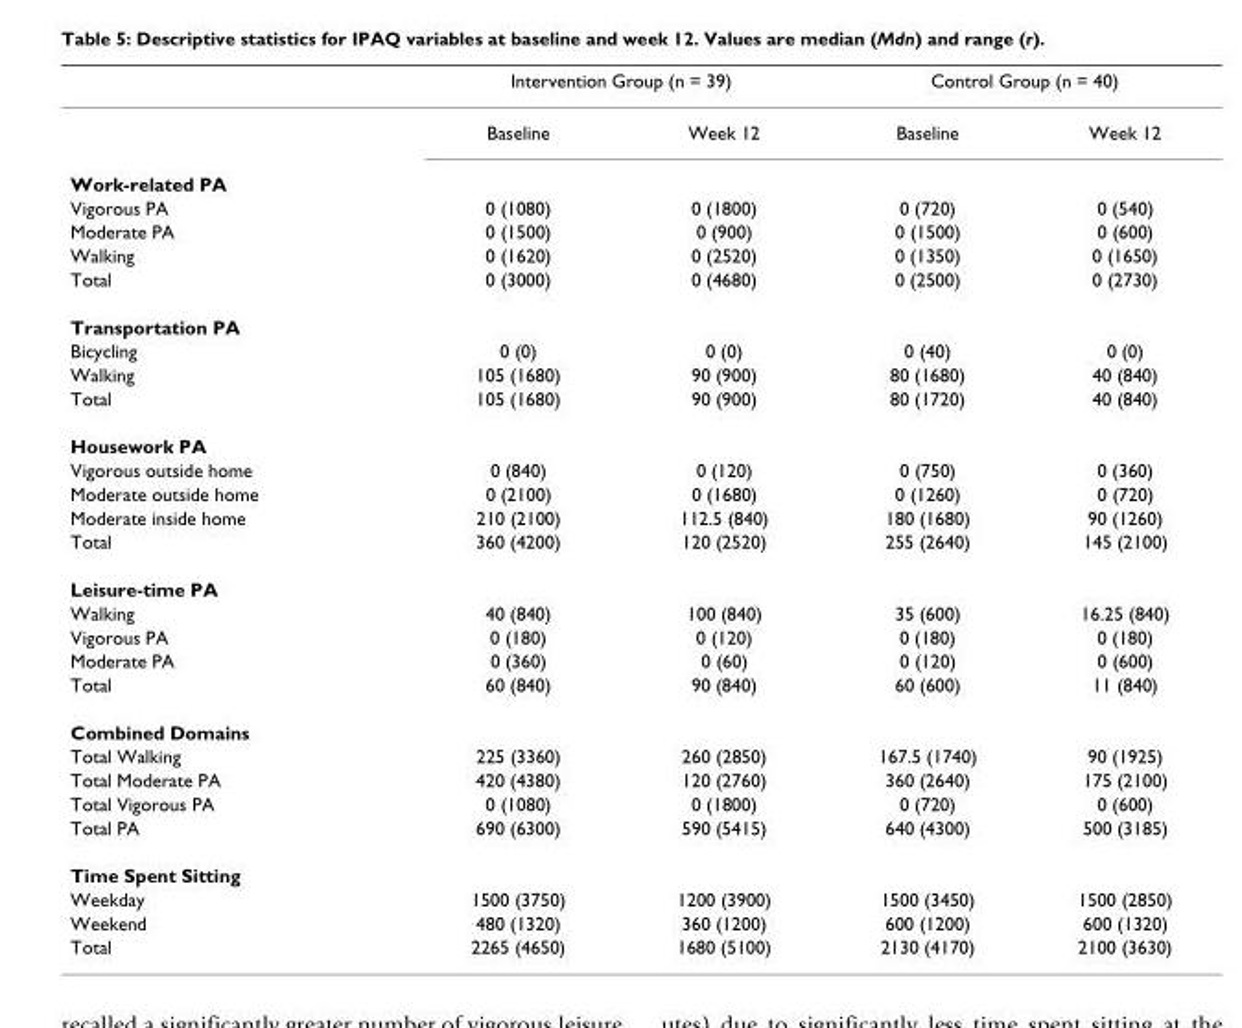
<table><thead><tr><td rowspan="2"></td><td colspan="2">Intervention Group (n = 39)</td><td colspan="2">Control Group (n = 40)</td></tr><tr><td>Baseline</td><td>Week 12</td><td>Baseline</td><td>Week 12</td></tr></thead><tbody><tr><td colspan="5">Work-related PA</td></tr><tr><td>Vigorous PA</td><td>0 (1080)</td><td>0 (1800)</td><td>0 (720)</td><td>0 (540)</td></tr><tr><td>Moderate PA</td><td>0 (1500)</td><td>0 (900)</td><td>0 (1500)</td><td>0 (600)</td></tr><tr><td>Walking</td><td>0 (1620)</td><td>0 (2520)</td><td>0 (1350)</td><td>0 (1650)</td></tr><tr><td>Total</td><td>0 (3000)</td><td>0 (4680)</td><td>0 (2500)</td><td>0 (2730)</td></tr><tr><td colspan="5">Transportation PA</td></tr><tr><td>Bicycling</td><td>0 (0)</td><td>0 (0)</td><td>0 (40)</td><td>0 (0)</td></tr><tr><td>Walking</td><td>105 (1680)</td><td>90 (900)</td><td>80 (1680)</td><td>40 (840)</td></tr><tr><td>Total</td><td>105 (1680)</td><td>90 (900)</td><td>80 (1720)</td><td>40 (840)</td></tr><tr><td colspan="5">Housework PA</td></tr><tr><td>Vigorous outside home</td><td>0 (840)</td><td>0 (120)</td><td>0 (750)</td><td>0 (360)</td></tr><tr><td>Moderate outside home</td><td>0 (2100)</td><td>0 (1680)</td><td>0 (1260)</td><td>0 (720)</td></tr><tr><td>Moderate inside home</td><td>210 (2100)</td><td>112.5 (840)</td><td>180 (1680)</td><td>90 (1260)</td></tr><tr><td>Total</td><td>360 (4200)</td><td>120 (2520)</td><td>255 (2640)</td><td>145 (2100)</td></tr><tr><td colspan="5">Leisure-time PA</td></tr><tr><td>Walking</td><td>40 (840)</td><td>100 (840)</td><td>35 (600)</td><td>16.25 (840)</td></tr><tr><td>Vigorous PA</td><td>0 (180)</td><td>0 (120)</td><td>0 (180)</td><td>0 (180)</td></tr><tr><td>Moderate PA</td><td>0 (360)</td><td>0 (60)</td><td>0 (120)</td><td>0 (600)</td></tr><tr><td>Total</td><td>60 (840)</td><td>90 (840)</td><td>60 (600)</td><td>11 (840)</td></tr><tr><td colspan="5">Combined Domains</td></tr><tr><td>Total Walking</td><td>225 (3360)</td><td>260 (2850)</td><td>167.5 (1740)</td><td>90 (1925)</td></tr><tr><td>Total Moderate PA</td><td>420 (4380)</td><td>120 (2760)</td><td>360 (2640)</td><td>175 (2100)</td></tr><tr><td>Total Vigorous PA</td><td>0 (1080)</td><td>0 (1800)</td><td>0 (720)</td><td>0 (600)</td></tr><tr><td>Total PA</td><td>690 (6300)</td><td>590 (5415)</td><td>640 (4300)</td><td>500 (3185)</td></tr><tr><td colspan="5">Time Spent Sitting</td></tr><tr><td>Weekday</td><td>1500 (3750)</td><td>1200 (3900)</td><td>1500 (3450)</td><td>1500 (2850)</td></tr><tr><td>Weekend</td><td>480 (1320)</td><td>360 (1200)</td><td>600 (1200)</td><td>600 (1320)</td></tr><tr><td>Total</td><td>2265 (4650)</td><td>1680 (5100)</td><td>2130 (4170)</td><td>2100 (3630)</td></tr></tbody></table>